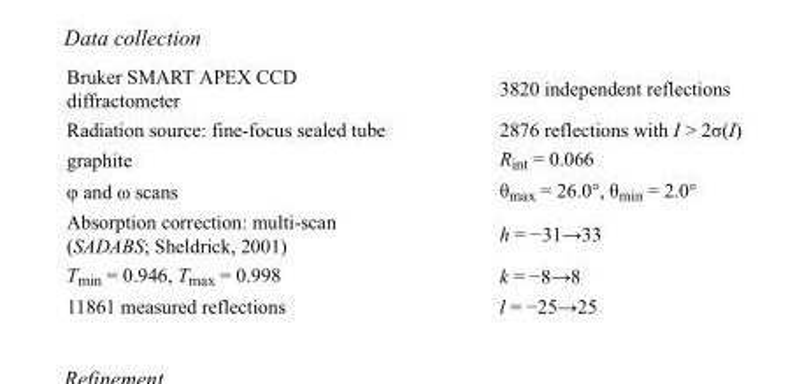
<table><tbody><tr><td>Bruker SMART APEX CCD diffractometer</td><td>3820 independent reflections</td></tr><tr><td>Radiation source: fine-focus sealed tube</td><td>2876 reflections with I &gt; 2σ(I)</td></tr><tr><td>graphite</td><td>R<sub>int</sub> = 0.066</td></tr><tr><td>φ and ω scans</td><td>θ<sub>max</sub> = 26.0°, θ<sub>min</sub> = 2.0°</td></tr><tr><td>Absorption correction: multi-scan (SADABS; Sheldrick, 2001)</td><td>h = −31→33</td></tr><tr><td>T<sub>min</sub> = 0.946, T<sub>max</sub> = 0.998</td><td>k = −8→8</td></tr><tr><td>11861 measured reflections</td><td>l = −25→25</td></tr></tbody></table>